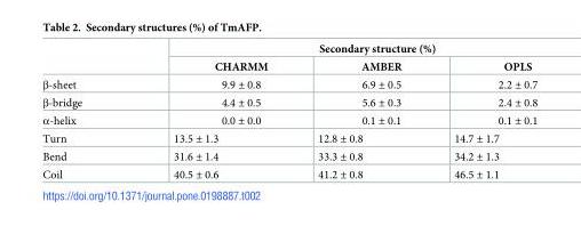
<table><thead><tr><td rowspan="2"></td><td colspan="3">Secondary structure (%)</td></tr><tr><td>CHARMM</td><td>AMBER</td><td>OPLS</td></tr></thead><tbody><tr><td>β-sheet</td><td>9.9 ± 0.8</td><td>6.9 ± 0.5</td><td>2.2 ± 0.7</td></tr><tr><td>β-bridge</td><td>4.4 ± 0.5</td><td>5.6 ± 0.3</td><td>2.4 ± 0.8</td></tr><tr><td>α-helix</td><td>0.0 ± 0.0</td><td>0.1 ± 0.1</td><td>0.1 ± 0.1</td></tr><tr><td>Turn</td><td>13.5 ± 1.3</td><td>12.8 ± 0.8</td><td>14.7 ± 1.7</td></tr><tr><td>Bend</td><td>31.6 ± 1.4</td><td>33.3 ± 0.8</td><td>34.2 ± 1.3</td></tr><tr><td>Coil</td><td>40.5 ± 0.6</td><td>41.2 ± 0.8</td><td>46.5 ± 1.1</td></tr></tbody></table>